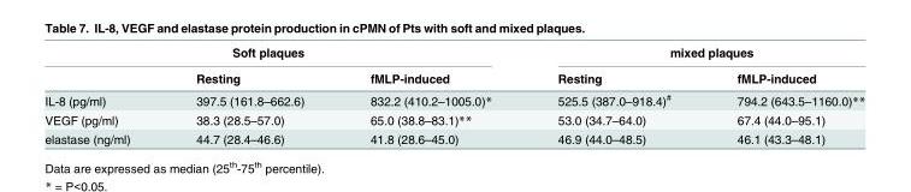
<table><thead><tr><td colspan="3">Soft plaques</td><td colspan="2">mixed plaques</td></tr><tr><td></td><td>Resting</td><td>fMLP-induced</td><td>Resting</td><td>fMLP-induced</td></tr></thead><tbody><tr><td>IL-8 (pg/ml)</td><td>397.5 (161.8–662.6)</td><td>832.2 (410.2–1005.0)*</td><td>525.5 (387.0–918.4)<sup>#</sup></td><td>794.2 (643.5–1160.0)**</td></tr><tr><td>VEGF (pg/ml)</td><td>38.3 (28.5–57.0)</td><td>65.0 (38.8–83.1)**</td><td>53.0 (34.7–64.0)</td><td>67.4 (44.0–95.1)</td></tr><tr><td>elastase (ng/ml)</td><td>44.7 (28.4–46.6)</td><td>41.8 (28.6–45.0)</td><td>46.9 (44.0–48.5)</td><td>46.1 (43.3–48.1)</td></tr></tbody></table>